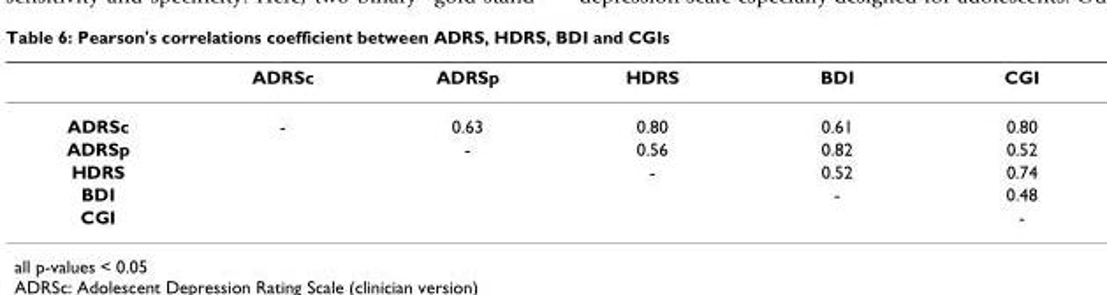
<table><thead><tr><td></td><td>ADRSc</td><td>ADRSp</td><td>HDRS</td><td>BDI</td><td>CGI</td></tr></thead><tbody><tr><td>ADRSc</td><td>-</td><td>0.63</td><td>0.80</td><td>0.61</td><td>0.80</td></tr><tr><td>ADRSp</td><td></td><td>-</td><td>0.56</td><td>0.82</td><td>0.52</td></tr><tr><td>HDRS</td><td></td><td></td><td>-</td><td>0.52</td><td>0.74</td></tr><tr><td>BDI</td><td></td><td></td><td></td><td>-</td><td>0.48</td></tr><tr><td>CGI</td><td></td><td></td><td></td><td></td><td>-</td></tr></tbody></table>